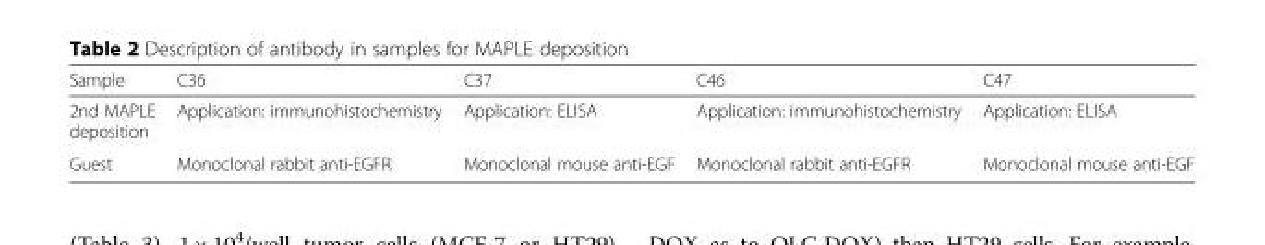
<table><thead><tr><td>Sample</td><td>C36</td><td>C37</td><td>C46</td><td>C47</td></tr></thead><tbody><tr><td>2nd MAPLE deposition</td><td>Application: immunohistochemistry</td><td>Application: ELISA</td><td>Application: immunohistochemistry</td><td>Application: ELISA</td></tr><tr><td>Guest</td><td>Monoclonal rabbit anti-EGFR</td><td>Monoclonal mouse anti-EGF</td><td>Monoclonal rabbit anti-EGFR</td><td>Monoclonal mouse anti-EGF</td></tr></tbody></table>